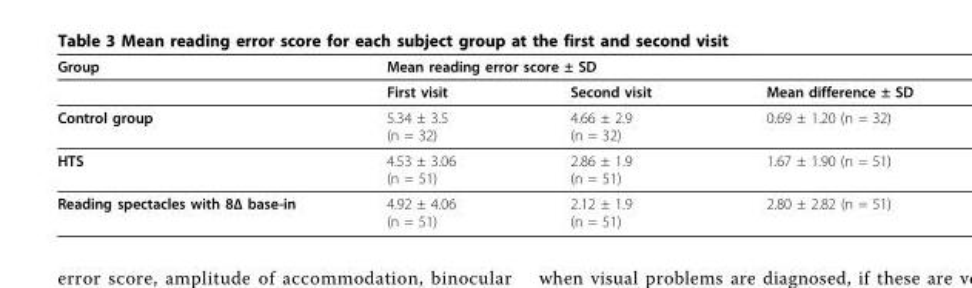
<table><thead><tr><td rowspan="2">Group</td><td colspan="2">Mean reading error score ± SD</td><td rowspan="2">Mean difference ± SD</td></tr><tr><td>First visit</td><td>Second visit</td></tr></thead><tbody><tr><td>Control group</td><td>5.34 ± 3.5 (n = 32)</td><td>4.66 ± 2.9 (n = 32)</td><td>0.69 ± 1.20 (n = 32)</td></tr><tr><td>HTS</td><td>4.53 ± 3.06 (n = 51)</td><td>2.86 ± 1.9 (n = 51)</td><td>1.67 ± 1.90 (n = 51)</td></tr><tr><td>Reading spectacles with 8Δ base-in</td><td>4.92 ± 4.06 (n = 51)</td><td>2.12 ± 1.9 (n = 51)</td><td>2.80 ± 2.82 (n = 51)</td></tr></tbody></table>